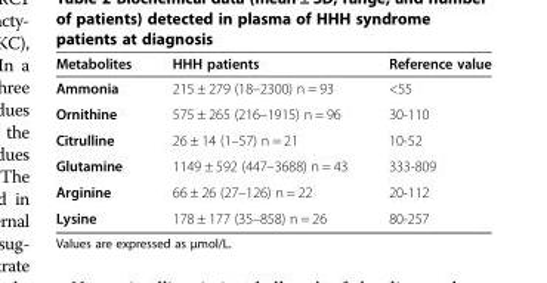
<table><thead><tr><td>Metabolites</td><td>HHH patients</td><td>Reference value</td></tr></thead><tbody><tr><td>Ammonia</td><td>215 ± 279 (18–2300) n = 93</td><td>&lt;55</td></tr><tr><td>Ornithine</td><td>575 ± 265 (216–1915) n = 96</td><td>30-110</td></tr><tr><td>Citrulline</td><td>26 ± 14 (1–57) n = 21</td><td>10-52</td></tr><tr><td>Glutamine</td><td>1149 ± 592 (447–3688) n = 43</td><td>333-809</td></tr><tr><td>Arginine</td><td>66 ± 26 (27–126) n = 22</td><td>20-112</td></tr><tr><td>Lysine</td><td>178 ± 177 (35–858) n = 26</td><td>80-257</td></tr></tbody></table>